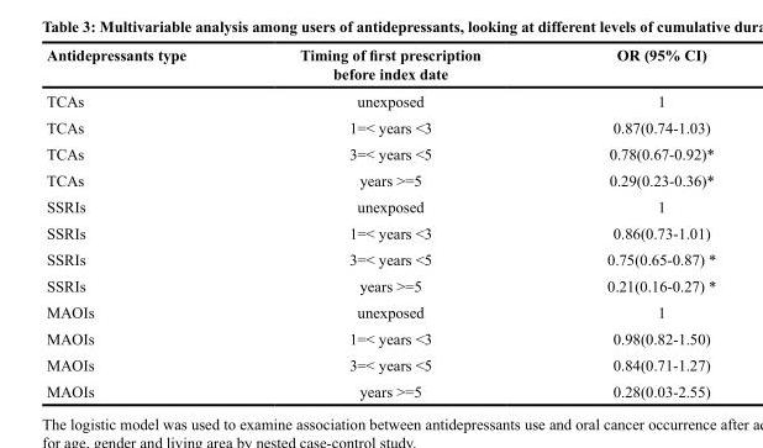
<table><thead><tr><td>Antidepressants type</td><td>Timing of first prescription before index date</td><td>OR (95% CI)</td></tr></thead><tbody><tr><td>TCAs</td><td>unexposed</td><td>1</td></tr><tr><td>TCAs</td><td>1=&lt; years &lt;3</td><td>0.87(0.74-1.03)</td></tr><tr><td>TCAs</td><td>3=&lt; years &lt;5</td><td>0.78(0.67-0.92)*</td></tr><tr><td>TCAs</td><td>years &gt;=5</td><td>0.29(0.23-0.36)*</td></tr><tr><td>SSRIs</td><td>unexposed</td><td>1</td></tr><tr><td>SSRIs</td><td>1=&lt; years &lt;3</td><td>0.86(0.73-1.01)</td></tr><tr><td>SSRIs</td><td>3=&lt; years &lt;5</td><td>0.75(0.65-0.87) *</td></tr><tr><td>SSRIs</td><td>years &gt;=5</td><td>0.21(0.16-0.27) *</td></tr><tr><td>MAOIs</td><td>unexposed</td><td>1</td></tr><tr><td>MAOIs</td><td>1=&lt; years &lt;3</td><td>0.98(0.82-1.50)</td></tr><tr><td>MAOIs</td><td>3=&lt; years &lt;5</td><td>0.84(0.71-1.27)</td></tr><tr><td>MAOIs</td><td>years &gt;=5</td><td>0.28(0.03-2.55)</td></tr></tbody></table>